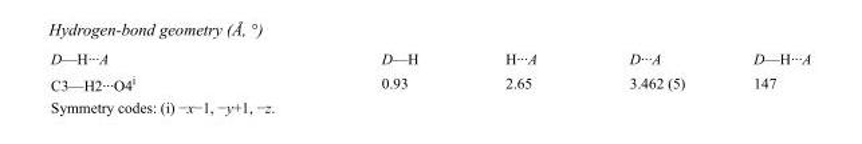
<table><tbody><tr><td>D—H···A</td><td>D—H</td><td>H···A</td><td>D···A</td><td>D—H···A</td></tr><tr><td>C3—H2···O4<sup>i</sup></td><td>0.93</td><td>2.65</td><td>3.462 (5)</td><td>147</td></tr></tbody></table>